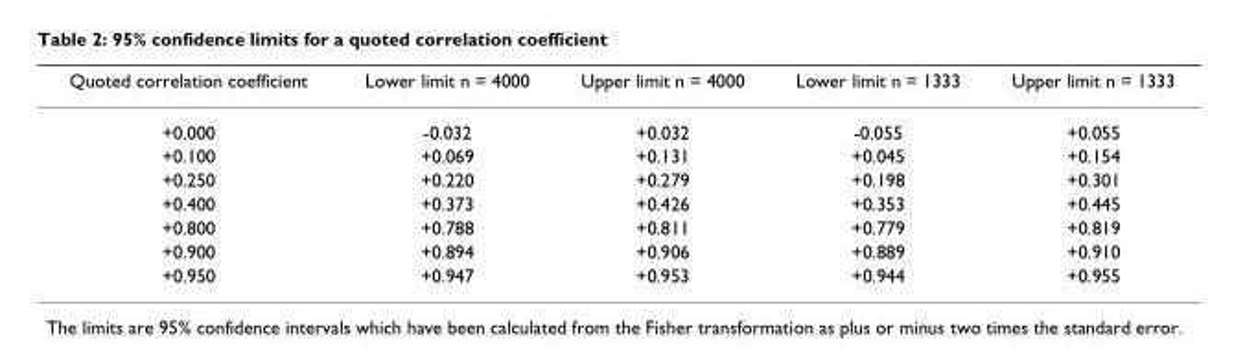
<table><thead><tr><td>Quoted correlation coefficient</td><td>Lower limit n = 4000</td><td>Upper limit n = 4000</td><td>Lower limit n = 1333</td><td>Upper limit n = 1333</td></tr></thead><tbody><tr><td>+0.000</td><td>-0.032</td><td>+0.032</td><td>-0.055</td><td>+0.055</td></tr><tr><td>+0.100</td><td>+0.069</td><td>+0.131</td><td>+0.045</td><td>+0.154</td></tr><tr><td>+0.250</td><td>+0.220</td><td>+0.279</td><td>+0.198</td><td>+0.301</td></tr><tr><td>+0.400</td><td>+0.373</td><td>+0.426</td><td>+0.353</td><td>+0.445</td></tr><tr><td>+0.800</td><td>+0.788</td><td>+0.811</td><td>+0.779</td><td>+0.819</td></tr><tr><td>+0.900</td><td>+0.894</td><td>+0.906</td><td>+0.889</td><td>+0.910</td></tr><tr><td>+0.950</td><td>+0.947</td><td>+0.953</td><td>+0.944</td><td>+0.955</td></tr></tbody></table>